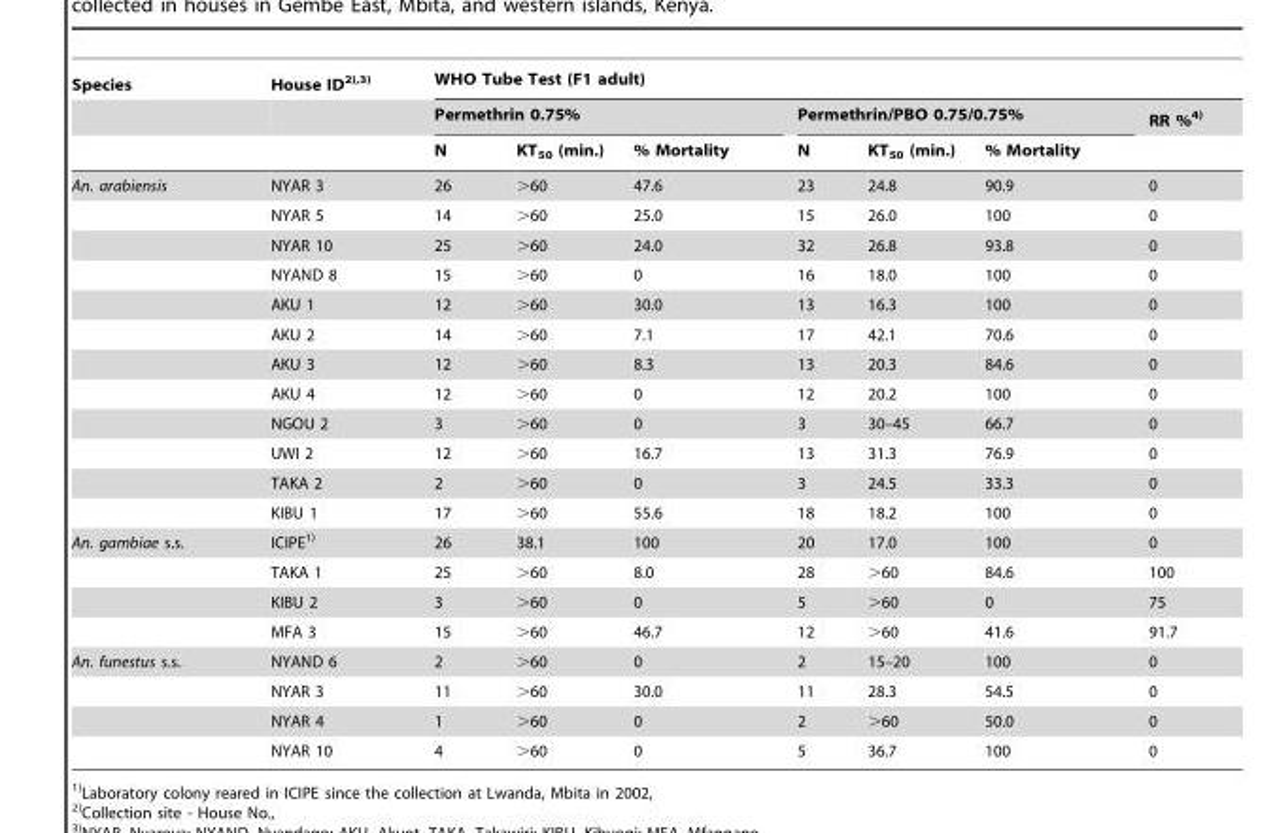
<table><thead><tr><td rowspan="3">Species</td><td rowspan="3">House ID2)<sup>,</sup>3)</td><td colspan="7">WHO Tube Test (F1 adult)</td></tr><tr><td colspan="3">Permethrin 0.75%</td><td colspan="3">Permethrin/PBO 0.75/0.75%</td><td rowspan="2">RR %4)</td></tr><tr><td>N</td><td>KT<sub>50</sub> (min.)</td><td>% Mortality</td><td>N</td><td>KT<sub>50</sub> (min.)</td><td>% Mortality</td></tr></thead><tbody><tr><td rowspan="12">An. arabiensis</td><td>NYAR 3</td><td>26</td><td>&gt;60</td><td>47.6</td><td>23</td><td>24.8</td><td>90.9</td><td>0</td></tr><tr><td>NYAR 5</td><td>14</td><td>&gt;60</td><td>25.0</td><td>15</td><td>26.0</td><td>100</td><td>0</td></tr><tr><td>NYAR 10</td><td>25</td><td>&gt;60</td><td>24.0</td><td>32</td><td>26.8</td><td>93.8</td><td>0</td></tr><tr><td>NYAND 8</td><td>15</td><td>&gt;60</td><td>0</td><td>16</td><td>18.0</td><td>100</td><td>0</td></tr><tr><td>AKU 1</td><td>12</td><td>&gt;60</td><td>30.0</td><td>13</td><td>16.3</td><td>100</td><td>0</td></tr><tr><td>AKU 2</td><td>14</td><td>&gt;60</td><td>7.1</td><td>17</td><td>42.1</td><td>70.6</td><td>0</td></tr><tr><td>AKU 3</td><td>12</td><td>&gt;60</td><td>8.3</td><td>13</td><td>20.3</td><td>84.6</td><td>0</td></tr><tr><td>AKU 4</td><td>12</td><td>&gt;60</td><td>0</td><td>12</td><td>20.2</td><td>100</td><td>0</td></tr><tr><td>NGOU 2</td><td>3</td><td>&gt;60</td><td>0</td><td>3</td><td>30–45</td><td>66.7</td><td>0</td></tr><tr><td>UWI 2</td><td>12</td><td>&gt;60</td><td>16.7</td><td>13</td><td>31.3</td><td>76.9</td><td>0</td></tr><tr><td>TAKA 2</td><td>2</td><td>&gt;60</td><td>0</td><td>3</td><td>24.5</td><td>33.3</td><td>0</td></tr><tr><td>KIBU 1</td><td>17</td><td>&gt;60</td><td>55.6</td><td>18</td><td>18.2</td><td>100</td><td>0</td></tr><tr><td rowspan="4">An. gambiae s.s.</td><td>ICIPE1)</td><td>26</td><td>38.1</td><td>100</td><td>20</td><td>17.0</td><td>100</td><td>0</td></tr><tr><td>TAKA 1</td><td>25</td><td>&gt;60</td><td>8.0</td><td>28</td><td>&gt;60</td><td>84.6</td><td>100</td></tr><tr><td>KIBU 2</td><td>3</td><td>&gt;60</td><td>0</td><td>5</td><td>&gt;60</td><td>0</td><td>75</td></tr><tr><td>MFA 3</td><td>15</td><td>&gt;60</td><td>46.7</td><td>12</td><td>&gt;60</td><td>41.6</td><td>91.7</td></tr><tr><td rowspan="4">An. funestus s.s.</td><td>NYAND 6</td><td>2</td><td>&gt;60</td><td>0</td><td>2</td><td>15–20</td><td>100</td><td>0</td></tr><tr><td>NYAR 3</td><td>11</td><td>&gt;60</td><td>30.0</td><td>11</td><td>28.3</td><td>54.5</td><td>0</td></tr><tr><td>NYAR 4</td><td>1</td><td>&gt;60</td><td>0</td><td>2</td><td>&gt;60</td><td>50.0</td><td>0</td></tr><tr><td>NYAR 10</td><td>4</td><td>&gt;60</td><td>0</td><td>5</td><td>36.7</td><td>100</td><td>0</td></tr></tbody></table>